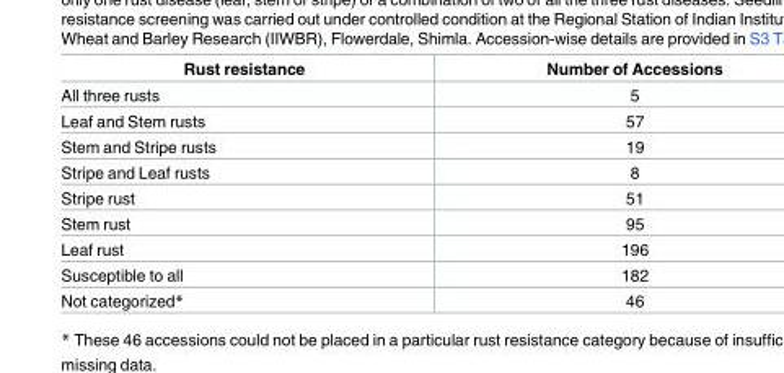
<table><thead><tr><td>Rust resistance</td><td>Number of Accessions</td></tr></thead><tbody><tr><td>All three rusts</td><td>5</td></tr><tr><td>Leaf and Stem rusts</td><td>57</td></tr><tr><td>Stem and Stripe rusts</td><td>19</td></tr><tr><td>Stripe and Leaf rusts</td><td>8</td></tr><tr><td>Stripe rust</td><td>51</td></tr><tr><td>Stem rust</td><td>95</td></tr><tr><td>Leaf rust</td><td>196</td></tr><tr><td>Susceptible to all</td><td>182</td></tr><tr><td>Not categorized*</td><td>46</td></tr></tbody></table>